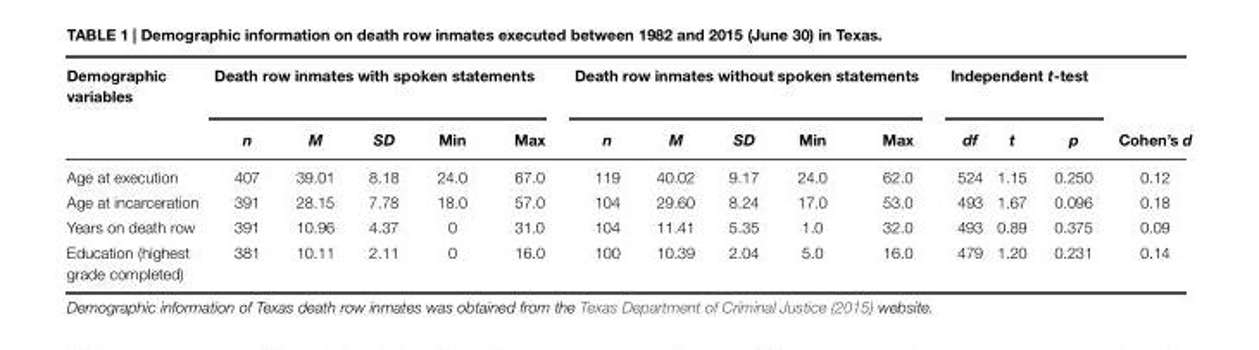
<table><thead><tr><td rowspan="2">Demographic variables</td><td colspan="5">Death row inmates with spoken statements</td><td colspan="5">Death row inmates without spoken statements</td><td colspan="4">Independent t-test</td></tr><tr><td>n</td><td>M</td><td>SD</td><td>Min</td><td>Max</td><td>n</td><td>M</td><td>SD</td><td>Min</td><td>Max</td><td>df</td><td>t</td><td>p</td><td>Cohen’s d</td></tr></thead><tbody><tr><td>Age at execution</td><td>407</td><td>39.01</td><td>8.18</td><td>24.0</td><td>67.0</td><td>119</td><td>40.02</td><td>9.17</td><td>24.0</td><td>62.0</td><td>524</td><td>1.15</td><td>0.250</td><td>0.12</td></tr><tr><td>Age at incarceration</td><td>391</td><td>28.15</td><td>7.78</td><td>18.0</td><td>57.0</td><td>104</td><td>29.60</td><td>8.24</td><td>17.0</td><td>53.0</td><td>493</td><td>1.67</td><td>0.096</td><td>0.18</td></tr><tr><td>Years on death row</td><td>391</td><td>10.96</td><td>4.37</td><td>0</td><td>31.0</td><td>104</td><td>11.41</td><td>5.35</td><td>1.0</td><td>32.0</td><td>493</td><td>0.89</td><td>0.375</td><td>0.09</td></tr><tr><td>Education (highest grade completed)</td><td>381</td><td>10.11</td><td>2.11</td><td>0</td><td>16.0</td><td>100</td><td>10.39</td><td>2.04</td><td>5.0</td><td>16.0</td><td>479</td><td>1.20</td><td>0.231</td><td>0.14</td></tr></tbody></table>